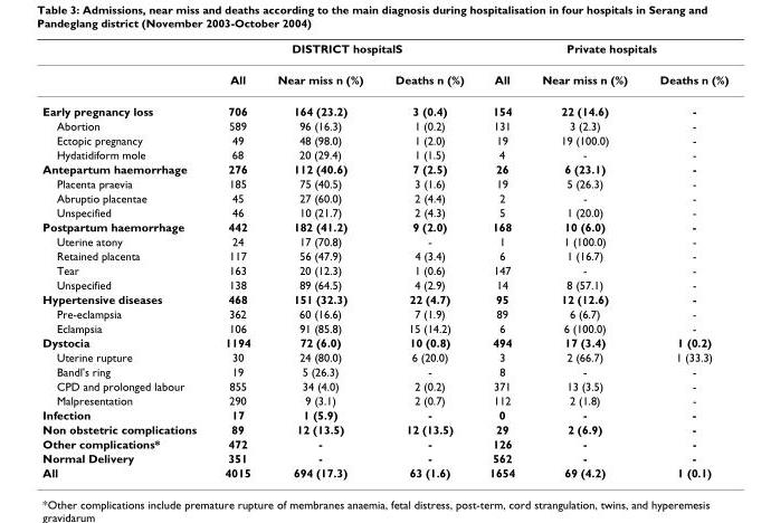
<table><thead><tr><td rowspan="2"></td><td colspan="3">DISTRICT hospitalS</td><td colspan="3">Private hospitals</td></tr><tr><td>All</td><td>Near miss n (%)</td><td>Deaths n (%)</td><td>All</td><td>Near miss n (%)</td><td>Deaths n (%)</td></tr></thead><tbody><tr><td>Early pregnancy loss</td><td>706</td><td>164 (23.2)</td><td>3 (0.4)</td><td>154</td><td>22 (14.6)</td><td>-</td></tr><tr><td>Abortion</td><td>589</td><td>96 (16.3)</td><td>1 (0.2)</td><td>131</td><td>3 (2.3)</td><td>-</td></tr><tr><td>Ectopic pregnancy</td><td>49</td><td>48 (98.0)</td><td>1 (2.0)</td><td>19</td><td>19 (100.0)</td><td>-</td></tr><tr><td>Hydatidiform mole</td><td>68</td><td>20 (29.4)</td><td>1 (1.5)</td><td>4</td><td>-</td><td>-</td></tr><tr><td>Antepartum haemorrhage</td><td>276</td><td>112 (40.6)</td><td>7 (2.5)</td><td>26</td><td>6 (23.1)</td><td>-</td></tr><tr><td>Placenta praevia</td><td>185</td><td>75 (40.5)</td><td>3 (1.6)</td><td>19</td><td>5 (26.3)</td><td>-</td></tr><tr><td>Abruptio placentae</td><td>45</td><td>27 (60.0)</td><td>2 (4.4)</td><td>2</td><td>-</td><td>-</td></tr><tr><td>Unspecified</td><td>46</td><td>10 (21.7)</td><td>2 (4.3)</td><td>5</td><td>1 (20.0)</td><td>-</td></tr><tr><td>Postpartum haemorrhage</td><td>442</td><td>182 (41.2)</td><td>9 (2.0)</td><td>168</td><td>10 (6.0)</td><td>-</td></tr><tr><td>Uterine atony</td><td>24</td><td>17 (70.8)</td><td>-</td><td>1</td><td>1 (100.0)</td><td>-</td></tr><tr><td>Retained placenta</td><td>117</td><td>56 (47.9)</td><td>4 (3.4)</td><td>6</td><td>1 (16.7)</td><td>-</td></tr><tr><td>Tear</td><td>163</td><td>20 (12.3)</td><td>1 (0.6)</td><td>147</td><td>-</td><td>-</td></tr><tr><td>Unspecified</td><td>138</td><td>89 (64.5)</td><td>4 (2.9)</td><td>14</td><td>8 (57.1)</td><td>-</td></tr><tr><td>Hypertensive diseases</td><td>468</td><td>151 (32.3)</td><td>22 (4.7)</td><td>95</td><td>12 (12.6)</td><td>-</td></tr><tr><td>Pre-eclampsia</td><td>362</td><td>60 (16.6)</td><td>7 (1.9)</td><td>89</td><td>6 (6.7)</td><td>-</td></tr><tr><td>Eclampsia</td><td>106</td><td>91 (85.8)</td><td>15 (14.2)</td><td>6</td><td>6 (100.0)</td><td>-</td></tr><tr><td>Dystocia</td><td>1194</td><td>72 (6.0)</td><td>10 (0.8)</td><td>494</td><td>17 (3.4)</td><td>1 (0.2)</td></tr><tr><td>Uterine rupture</td><td>30</td><td>24 (80.0)</td><td>6 (20.0)</td><td>3</td><td>2 (66.7)</td><td>1 (33.3)</td></tr><tr><td>Bandl&#x27;s ring</td><td>19</td><td>5 (26.3)</td><td>-</td><td>8</td><td>-</td><td>-</td></tr><tr><td>CPD and prolonged labour</td><td>855</td><td>34 (4.0)</td><td>2 (0.2)</td><td>371</td><td>13 (3.5)</td><td>-</td></tr><tr><td>Malpresentation</td><td>290</td><td>9 (3.1)</td><td>2 (0.7)</td><td>112</td><td>2 (1.8)</td><td>-</td></tr><tr><td>Infection</td><td>17</td><td>1 (5.9)</td><td>-</td><td>0</td><td>-</td><td>-</td></tr><tr><td>Non obstetric complications</td><td>89</td><td>12 (13.5)</td><td>12 (13.5)</td><td>29</td><td>2 (6.9)</td><td>-</td></tr><tr><td>Other complications*</td><td>472</td><td>-</td><td>-</td><td>126</td><td>-</td><td>-</td></tr><tr><td>Normal Delivery</td><td>351</td><td>-</td><td>-</td><td>562</td><td>-</td><td>-</td></tr><tr><td>All</td><td>4015</td><td>694 (17.3)</td><td>63 (1.6)</td><td>1654</td><td>69 (4.2)</td><td>1 (0.1)</td></tr></tbody></table>